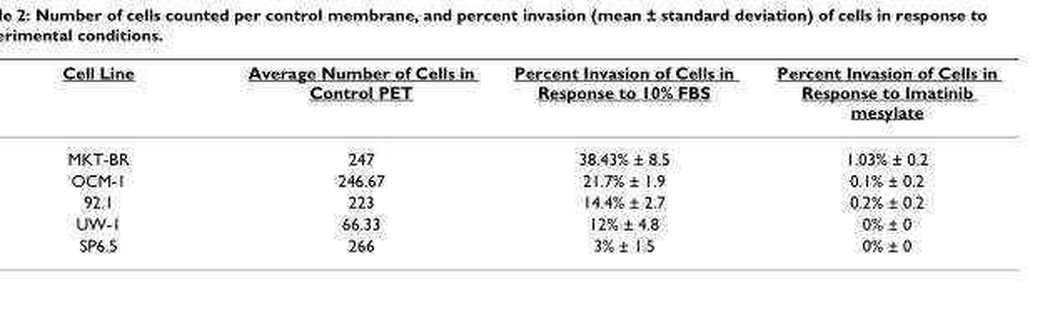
<table><thead><tr><td>Cell Line</td><td>Average Number of Cells in Control PET</td><td>Percent Invasion of Cells in Response to 10% FBS</td><td>Percent Invasion of Cells in Response to Imatinib mesylate</td></tr></thead><tbody><tr><td>MKT-BR</td><td>247</td><td>38.43% ± 8.5</td><td>1.03% ± 0.2</td></tr><tr><td>OCM-1</td><td>246.67</td><td>21.7% ± 1.9</td><td>0.1% ± 0.2</td></tr><tr><td>92.1</td><td>223</td><td>14.4% ± 2.7</td><td>0.2% ± 0.2</td></tr><tr><td>UW-1</td><td>66.33</td><td>12% ± 4.8</td><td>0% ± 0</td></tr><tr><td>SP6.5</td><td>266</td><td>3% ± 1.5</td><td>0% ± 0</td></tr></tbody></table>